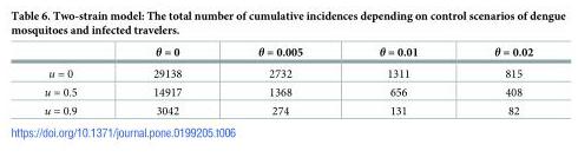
<table><thead><tr><td></td><td>θ = 0</td><td>θ = 0.005</td><td>θ = 0.01</td><td>θ = 0.02</td></tr></thead><tbody><tr><td>u = 0</td><td>29138</td><td>2732</td><td>1311</td><td>815</td></tr><tr><td>u = 0.5</td><td>14917</td><td>1368</td><td>656</td><td>408</td></tr><tr><td>u = 0.9</td><td>3042</td><td>274</td><td>131</td><td>82</td></tr></tbody></table>